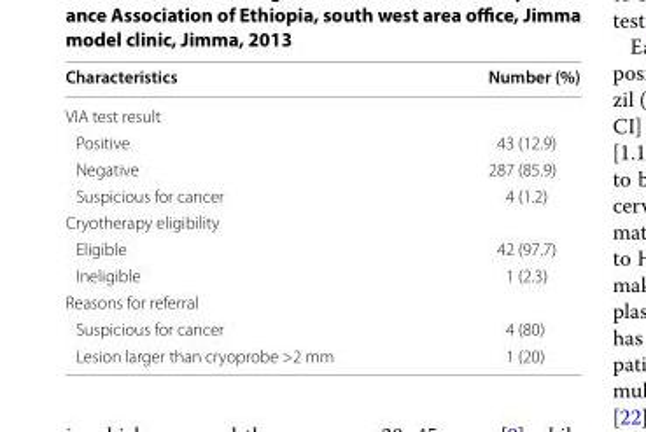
<table><thead><tr><td>Characteristics</td><td>Number (%)</td></tr></thead><tbody><tr><td colspan="2">VIA test result</td></tr><tr><td>Positive</td><td>43 (12.9)</td></tr><tr><td>Negative</td><td>287 (85.9)</td></tr><tr><td>Suspicious for cancer</td><td>4 (1.2)</td></tr><tr><td colspan="2">Cryotherapy eligibility</td></tr><tr><td>Eligible</td><td>42 (97.7)</td></tr><tr><td>Ineligible</td><td>1 (2.3)</td></tr><tr><td colspan="2">Reasons for referral</td></tr><tr><td>Suspicious for cancer</td><td>4 (80)</td></tr><tr><td>Lesion larger than cryoprobe &gt;2 mm</td><td>1 (20)</td></tr></tbody></table>